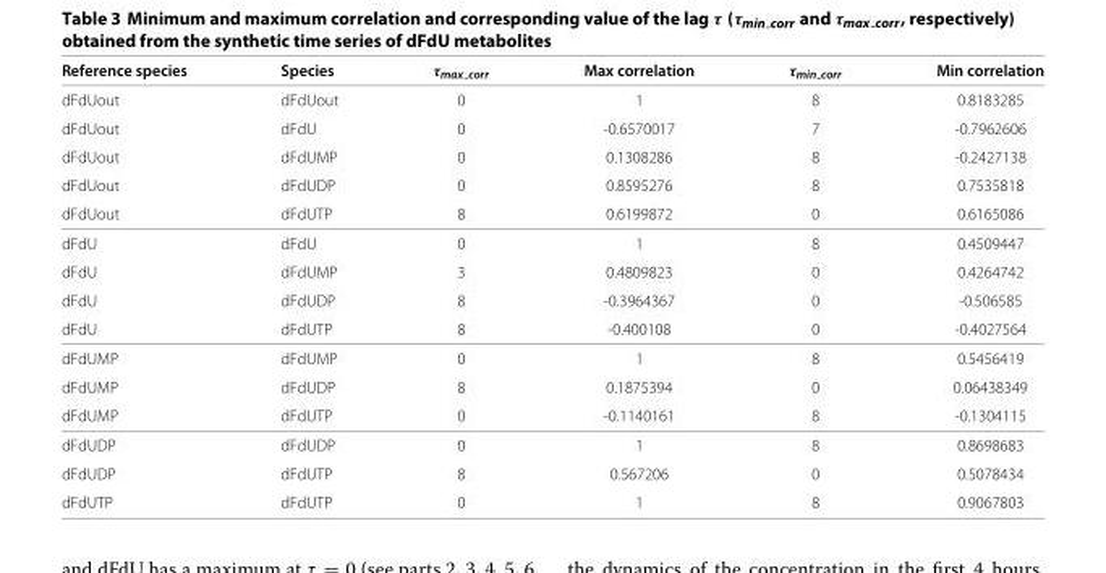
<table><thead><tr><td>Reference species</td><td>Species</td><td>τmax corr</td><td>Max correlation</td><td>τmin corr</td><td>Min correlation</td></tr></thead><tbody><tr><td>dFdUout</td><td>dFdUout</td><td>0</td><td>1</td><td>8</td><td>0.8183285</td></tr><tr><td>dFdUout</td><td>dFdU</td><td>0</td><td>-0.6570017</td><td>7</td><td>-0.7962606</td></tr><tr><td>dFdUout</td><td>dFdUMP</td><td>0</td><td>0.1308286</td><td>8</td><td>-0.2427138</td></tr><tr><td>dFdUout</td><td>dFdUDP</td><td>0</td><td>0.8595276</td><td>8</td><td>0.7535818</td></tr><tr><td>dFdUout</td><td>dFdUTP</td><td>8</td><td>0.6199872</td><td>0</td><td>0.6165086</td></tr><tr><td>dFdU</td><td>dFdU</td><td>0</td><td>1</td><td>8</td><td>0.4509447</td></tr><tr><td>dFdU</td><td>dFdUMP</td><td>3</td><td>0.4809823</td><td>0</td><td>0.4264742</td></tr><tr><td>dFdU</td><td>dFdUDP</td><td>8</td><td>-0.3964367</td><td>0</td><td>-0.506585</td></tr><tr><td>dFdU</td><td>dFdUTP</td><td>8</td><td>-0.400108</td><td>0</td><td>-0.4027564</td></tr><tr><td>dFdUMP</td><td>dFdUMP</td><td>0</td><td>1</td><td>8</td><td>0.5456419</td></tr><tr><td>dFdUMP</td><td>dFdUDP</td><td>8</td><td>0.1875394</td><td>0</td><td>0.06438349</td></tr><tr><td>dFdUMP</td><td>dFdUTP</td><td>0</td><td>-0.1140161</td><td>8</td><td>-0.1304115</td></tr><tr><td>dFdUDP</td><td>dFdUDP</td><td>0</td><td>1</td><td>8</td><td>0.8698683</td></tr><tr><td>dFdUDP</td><td>dFdUTP</td><td>8</td><td>0.567206</td><td>0</td><td>0.5078434</td></tr><tr><td>dFdUTP</td><td>dFdUTP</td><td>0</td><td>1</td><td>8</td><td>0.9067803</td></tr></tbody></table>